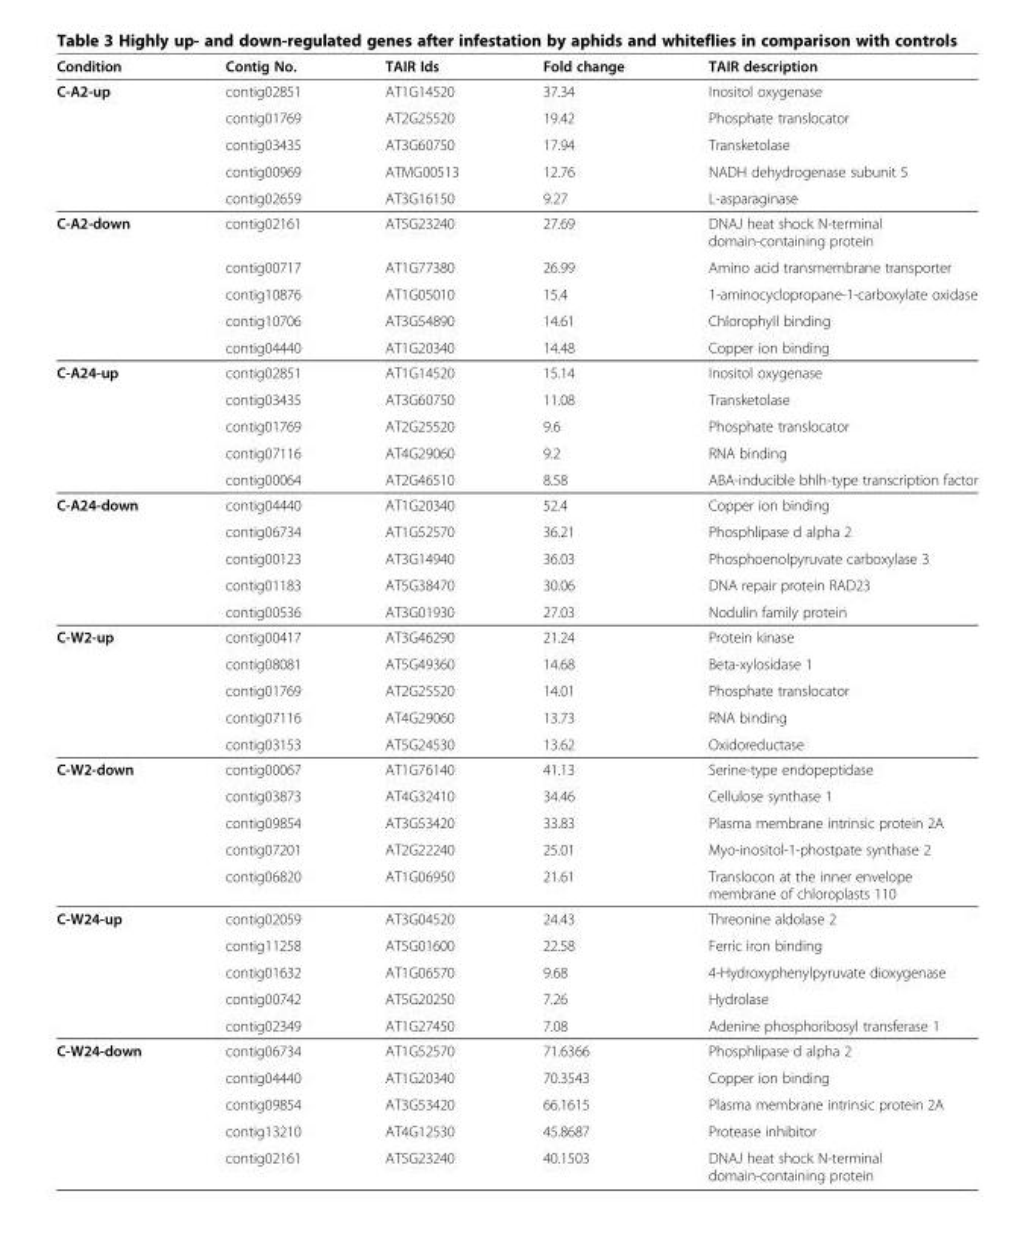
<table><thead><tr><td>Condition</td><td>Contig No.</td><td>TAIR Ids</td><td>Fold change</td><td>TAIR description</td></tr></thead><tbody><tr><td rowspan="5">C-A2-up</td><td>contig02851</td><td>AT1G14520</td><td>37.34</td><td>Inositol oxygenase</td></tr><tr><td>contig01769</td><td>AT2G25520</td><td>19.42</td><td>Phosphate translocator</td></tr><tr><td>contig03435</td><td>AT3G60750</td><td>17.94</td><td>Transketolase</td></tr><tr><td>contig00969</td><td>ATMG00513</td><td>12.76</td><td>NADH dehydrogenase subunit 5</td></tr><tr><td>contig02659</td><td>AT3G16150</td><td>9.27</td><td>L-asparaginase</td></tr><tr><td rowspan="5">C-A2-down</td><td>contig02161</td><td>AT5G23240</td><td>27.69</td><td>DNAJ heat shock N-terminal domain-containing protein</td></tr><tr><td>contig00717</td><td>AT1G77380</td><td>26.99</td><td>Amino acid transmembrane transporter</td></tr><tr><td>contig10876</td><td>AT1G05010</td><td>15.4</td><td>1-aminocyclopropane-1-carboxylate oxidase</td></tr><tr><td>contig10706</td><td>AT3G54890</td><td>14.61</td><td>Chlorophyll binding</td></tr><tr><td>contig04440</td><td>AT1G20340</td><td>14.48</td><td>Copper ion binding</td></tr><tr><td rowspan="5">C-A24-up</td><td>contig02851</td><td>AT1G14520</td><td>15.14</td><td>Inositol oxygenase</td></tr><tr><td>contig03435</td><td>AT3G60750</td><td>11.08</td><td>Transketolase</td></tr><tr><td>contig01769</td><td>AT2G25520</td><td>9.6</td><td>Phosphate translocator</td></tr><tr><td>contig07116</td><td>AT4G29060</td><td>9.2</td><td>RNA binding</td></tr><tr><td>contig00064</td><td>AT2G46510</td><td>8.58</td><td>ABA-inducible bhlh-type transcription factor</td></tr><tr><td rowspan="5">C-A24-down</td><td>contig04440</td><td>AT1G20340</td><td>52.4</td><td>Copper ion binding</td></tr><tr><td>contig06734</td><td>AT1G52570</td><td>36.21</td><td>Phosphlipase d alpha 2</td></tr><tr><td>contig00123</td><td>AT3G14940</td><td>36.03</td><td>Phosphoenolpyruvate carboxylase 3</td></tr><tr><td>contig01183</td><td>AT5G38470</td><td>30.06</td><td>DNA repair protein RAD23</td></tr><tr><td>contig00536</td><td>AT3G01930</td><td>27.03</td><td>Nodulin family protein</td></tr><tr><td rowspan="5">C-W2-up</td><td>contig00417</td><td>AT3G46290</td><td>21.24</td><td>Protein kinase</td></tr><tr><td>contig08081</td><td>AT5G49360</td><td>14.68</td><td>Beta-xylosidase 1</td></tr><tr><td>contig01769</td><td>AT2G25520</td><td>14.01</td><td>Phosphate translocator</td></tr><tr><td>contig07116</td><td>AT4G29060</td><td>13.73</td><td>RNA binding</td></tr><tr><td>contig03153</td><td>AT5G24530</td><td>13.62</td><td>Oxidoreductase</td></tr><tr><td rowspan="5">C-W2-down</td><td>contig00067</td><td>AT1G76140</td><td>41.13</td><td>Serine-type endopeptidase</td></tr><tr><td>contig03873</td><td>AT4G32410</td><td>34.46</td><td>Cellulose synthase 1</td></tr><tr><td>contig09854</td><td>AT3G53420</td><td>33.83</td><td>Plasma membrane intrinsic protein 2A</td></tr><tr><td>contig07201</td><td>AT2G22240</td><td>25.01</td><td>Myo-inositol-1-phostpate synthase 2</td></tr><tr><td>contig06820</td><td>AT1G06950</td><td>21.61</td><td>Translocon at the inner envelope membrane of chloroplasts 110</td></tr><tr><td rowspan="5">C-W24-up</td><td>contig02059</td><td>AT3G04520</td><td>24.43</td><td>Threonine aldolase 2</td></tr><tr><td>contig11258</td><td>AT5G01600</td><td>22.58</td><td>Ferric iron binding</td></tr><tr><td>contig01632</td><td>AT1G06570</td><td>9.68</td><td>4-Hydroxyphenylpyruvate dioxygenase</td></tr><tr><td>contig00742</td><td>AT5G20250</td><td>7.26</td><td>Hydrolase</td></tr><tr><td>contig02349</td><td>AT1G27450</td><td>7.08</td><td>Adenine phosphoribosyl transferase 1</td></tr><tr><td rowspan="5">C-W24-down</td><td>contig06734</td><td>AT1G52570</td><td>71.6366</td><td>Phosphlipase d alpha 2</td></tr><tr><td>contig04440</td><td>AT1G20340</td><td>70.3543</td><td>Copper ion binding</td></tr><tr><td>contig09854</td><td>AT3G53420</td><td>66.1615</td><td>Plasma membrane intrinsic protein 2A</td></tr><tr><td>contig13210</td><td>AT4G12530</td><td>45.8687</td><td>Protease inhibitor</td></tr><tr><td>contig02161</td><td>AT5G23240</td><td>40.1503</td><td>DNAJ heat shock N-terminal domain-containing protein</td></tr></tbody></table>